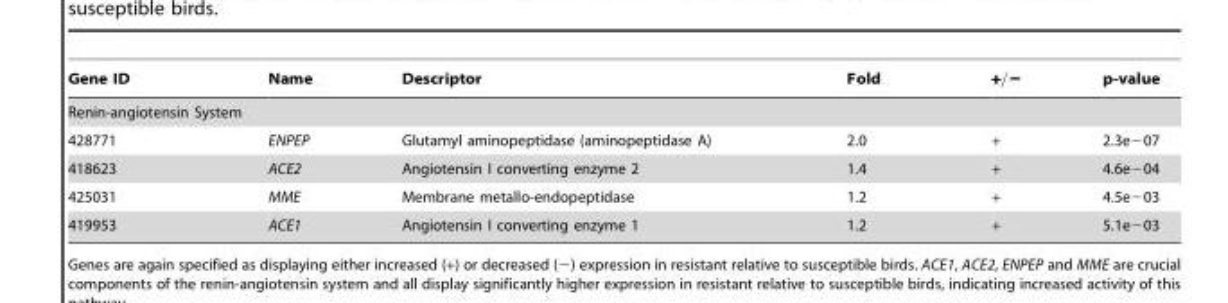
<table><thead><tr><td>Gene ID</td><td>Name</td><td>Descriptor</td><td>Fold</td><td>+=2</td><td>p-value</td></tr></thead><tbody><tr><td colspan="6">Renin-angiotensin System</td></tr><tr><td>428771</td><td>ENPEP</td><td>Glutamyl aminopeptidase (aminopeptidase A)</td><td>2.0</td><td>+</td><td>2.3e−07</td></tr><tr><td>418623</td><td>ACE2</td><td>Angiotensin I converting enzyme 2</td><td>1.4</td><td>+</td><td>4.6e−04</td></tr><tr><td>425031</td><td>MME</td><td>Membrane metallo-endopeptidase</td><td>1.2</td><td>+</td><td>4.5e−03</td></tr><tr><td>419953</td><td>ACE1</td><td>Angiotensin I converting enzyme 1</td><td>1.2</td><td>+</td><td>5.1e−03</td></tr></tbody></table>